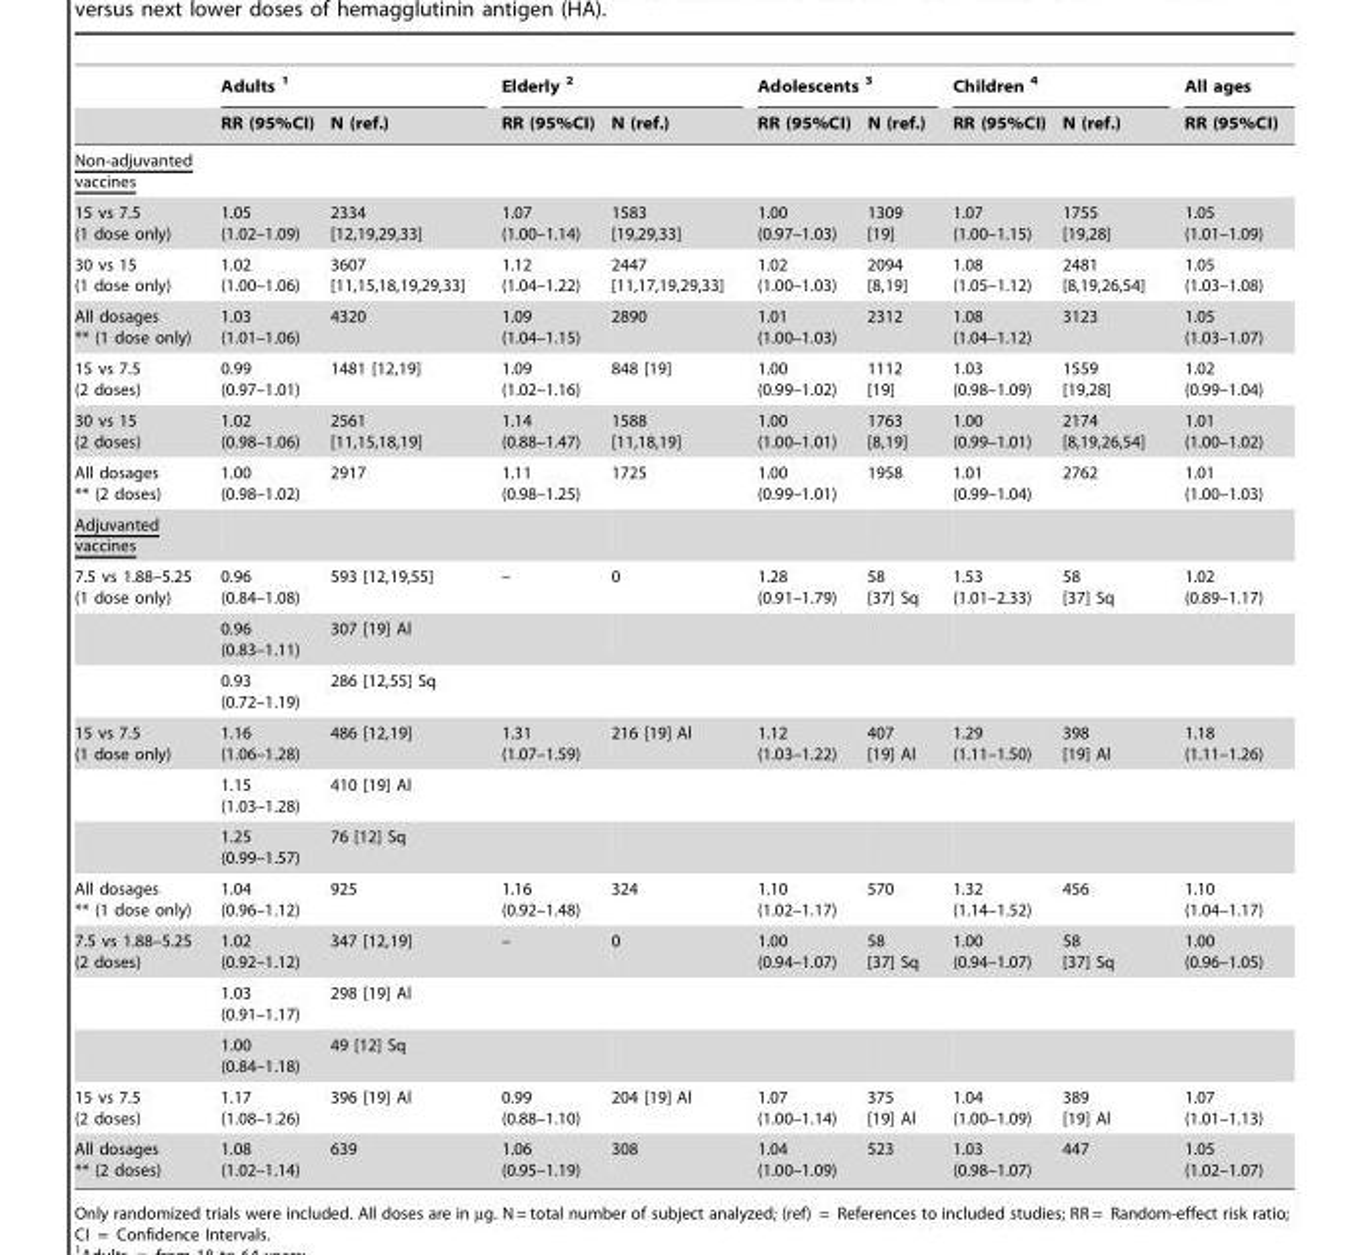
<table><thead><tr><td rowspan="2"></td><td colspan="2">Adults 1</td><td colspan="2">Elderly 2</td><td colspan="2">Adolescents 3</td><td colspan="2">Children 4</td><td rowspan="2">All ages RR (95%CI)</td></tr><tr><td>RR (95%CI)</td><td>N (ref.)</td><td>RR (95%CI)</td><td>N (ref.)</td><td>RR (95%CI)</td><td>N (ref.)</td><td>RR (95%CI)</td><td>N (ref.)</td></tr></thead><tbody><tr><td colspan="10">Non-adjuvanted vaccines</td></tr><tr><td>15 vs 7.5 (1 dose only)</td><td>1.05 (1.02–1.09)</td><td>2334 [12,19,29,33]</td><td>1.07 (1.00–1.14)</td><td>1583 [19,29,33]</td><td>1.00 (0.97–1.03)</td><td>1309 [19]</td><td>1.07 (1.00–1.15)</td><td>1755 [19,28]</td><td>1.05 (1.01–1.09)</td></tr><tr><td>30 vs 15 (1 dose only)</td><td>1.02 (1.00–1.06)</td><td>3607 [11,15,18,19,29,33]</td><td>1.12 (1.04–1.22)</td><td>2447 [11,17,19,29,33]</td><td>1.02 (1.00–1.03)</td><td>2094 [8,19]</td><td>1.08 (1.05–1.12)</td><td>2481 [8,19,26,54]</td><td>1.05 (1.03–1.08)</td></tr><tr><td>All dosages ** (1 dose only)</td><td>1.03 (1.01–1.06)</td><td>4320</td><td>1.09 (1.04–1.15)</td><td>2890</td><td>1.01 (1.00–1.03)</td><td>2312</td><td>1.08 (1.04–1.12)</td><td>3123</td><td>1.05 (1.03–1.07)</td></tr><tr><td>15 vs 7.5 (2 doses)</td><td>0.99 (0.97–1.01)</td><td>1481 [12,19]</td><td>1.09 (1.02–1.16)</td><td>848 [19]</td><td>1.00 (0.99–1.02)</td><td>1112 [19]</td><td>1.03 (0.98–1.09)</td><td>1559 [19,28]</td><td>1.02 (0.99–1.04)</td></tr><tr><td>30 vs 15 (2 doses)</td><td>1.02 (0.98–1.06)</td><td>2561 [11,15,18,19]</td><td>1.14 (0.88–1.47)</td><td>1588 [11,18,19]</td><td>1.00 (1.00–1.01)</td><td>1763 [8,19]</td><td>1.00 (0.99–1.01)</td><td>2174 [8,19,26,54]</td><td>1.01 (1.00–1.02)</td></tr><tr><td>All dosages ** (2 doses)</td><td>1.00 (0.98–1.02)</td><td>2917</td><td>1.11 (0.98–1.25)</td><td>1725</td><td>1.00 (0.99–1.01)</td><td>1958</td><td>1.01 (0.99–1.04)</td><td>2762</td><td>1.01 (1.00–1.03)</td></tr><tr><td colspan="10">Adjuvanted vaccines</td></tr><tr><td rowspan="3">7.5 vs 1.88–5.25 (1 dose only)</td><td>0.96 (0.84–1.08)</td><td>593 [12,19,55]</td><td>–</td><td>0</td><td>1.28 (0.91–1.79)</td><td>58 [37] Sq</td><td>1.53 (1.01–2.33)</td><td>58 [37] Sq</td><td>1.02 (0.89–1.17)</td></tr><tr><td>0.96 (0.83–1.11)</td><td>307 [19] Al</td><td></td><td></td><td></td><td></td><td></td><td></td><td></td></tr><tr><td>0.93 (0.72–1.19)</td><td>286 [12,55] Sq</td><td></td><td></td><td></td><td></td><td></td><td></td><td></td></tr><tr><td rowspan="3">15 vs 7.5 (1 dose only)</td><td>1.16 (1.06–1.28)</td><td>486 [12,19]</td><td>1.31 (1.07–1.59)</td><td>216 [19] Al</td><td>1.12 (1.03–1.22)</td><td>407 [19] Al</td><td>1.29 (1.11–1.50)</td><td>398 [19] Al</td><td>1.18 (1.11–1.26)</td></tr><tr><td>1.15 (1.03–1.28)</td><td>410 [19] Al</td><td></td><td></td><td></td><td></td><td></td><td></td><td></td></tr><tr><td>1.25 (0.99–1.57)</td><td>76 [12] Sq</td><td></td><td></td><td></td><td></td><td></td><td></td><td></td></tr><tr><td>All dosages ** (1 dose only)</td><td>1.04 (0.96–1.12)</td><td>925</td><td>1.16 (0.92–1.48)</td><td>324</td><td>1.10 (1.02–1.17)</td><td>570</td><td>1.32 (1.14–1.52)</td><td>456</td><td>1.10 (1.04–1.17)</td></tr><tr><td rowspan="3">7.5 vs 1.88–5.25 (2 doses)</td><td>1.02 (0.92–1.12)</td><td>347 [12,19]</td><td>–</td><td>0</td><td>1.00 (0.94–1.07)</td><td>58 [37] Sq</td><td>1.00 (0.94–1.07)</td><td>58 [37] Sq</td><td>1.00 (0.96–1.05)</td></tr><tr><td>1.03 (0.91–1.17)</td><td>298 [19] Al</td><td></td><td></td><td></td><td></td><td></td><td></td><td></td></tr><tr><td>1.00 (0.84–1.18)</td><td>49 [12] Sq</td><td></td><td></td><td></td><td></td><td></td><td></td><td></td></tr><tr><td>15 vs 7.5 (2 doses)</td><td>1.17 (1.08–1.26)</td><td>396 [19] Al</td><td>0.99 (0.88–1.10)</td><td>204 [19] Al</td><td>1.07 (1.00–1.14)</td><td>375 [19] Al</td><td>1.04 (1.00–1.09)</td><td>389 [19] Al</td><td>1.07 (1.01–1.13)</td></tr><tr><td>All dosages ** (2 doses)</td><td>1.08 (1.02–1.14)</td><td>639</td><td>1.06 (0.95–1.19)</td><td>308</td><td>1.04 (1.00–1.09)</td><td>523</td><td>1.03 (0.98–1.07)</td><td>447</td><td>1.05 (1.02–1.07)</td></tr></tbody></table>